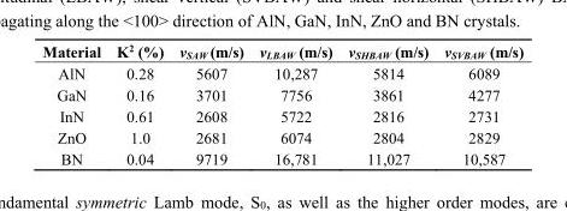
<table><thead><tr><td>Material</td><td>K<sup>2</sup> (%)</td><td>v<sub>SAW</sub> (m/s)</td><td>v<sub>LBAW</sub> (m/s)</td><td>v<sub>SHBAW</sub> (m/s)</td><td>v<sub>SVBAW</sub> (m/s)</td></tr></thead><tbody><tr><td>AlN</td><td>0.28</td><td>5607</td><td>10,287</td><td>5814</td><td>6089</td></tr><tr><td>GaN</td><td>0.16</td><td>3701</td><td>7756</td><td>3861</td><td>4277</td></tr><tr><td>InN</td><td>0.61</td><td>2608</td><td>5722</td><td>2816</td><td>2731</td></tr><tr><td>ZnO</td><td>1.0</td><td>2681</td><td>6074</td><td>2804</td><td>2829</td></tr><tr><td>BN</td><td>0.04</td><td>9719</td><td>16,781</td><td>11,027</td><td>10,587</td></tr></tbody></table>